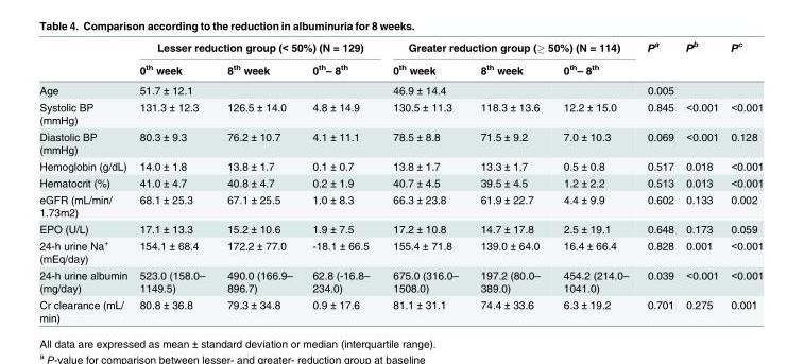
<table><thead><tr><td rowspan="2"></td><td colspan="3">Lesser reduction group (&lt; 50%) (N = 129)</td><td colspan="3">Greater reduction group (≥ 50%) (N = 114)</td><td rowspan="2">P<sup>a</sup></td><td rowspan="2">P<sup>b</sup></td><td rowspan="2">P<sup>c</sup></td></tr><tr><td>0<sup>th</sup> week</td><td>8<sup>th</sup> week</td><td>0<sup>th</sup>– 8<sup>th</sup></td><td>0<sup>th</sup> week</td><td>8<sup>th</sup> week</td><td>0<sup>th</sup>– 8<sup>th</sup></td></tr></thead><tbody><tr><td>Age</td><td>51.7 ± 12.1</td><td></td><td></td><td>46.9 ± 14.4</td><td></td><td></td><td>0.005</td><td></td><td></td></tr><tr><td>Systolic BP (mmHg)</td><td>131.3 ± 12.3</td><td>126.5 ± 14.0</td><td>4.8 ± 14.9</td><td>130.5 ± 11.3</td><td>118.3 ± 13.6</td><td>12.2 ± 15.0</td><td>0.845</td><td>&lt;0.001</td><td>&lt;0.001</td></tr><tr><td>Diastolic BP (mmHg)</td><td>80.3 ± 9.3</td><td>76.2 ± 10.7</td><td>4.1 ± 11.1</td><td>78.5 ± 8.8</td><td>71.5 ± 9.2</td><td>7.0 ± 10.3</td><td>0.069</td><td>&lt;0.001</td><td>0.128</td></tr><tr><td>Hemoglobin (g/dL)</td><td>14.0 ± 1.8</td><td>13.8 ± 1.7</td><td>0.1 ± 0.7</td><td>13.8 ± 1.7</td><td>13.3 ± 1.7</td><td>0.5 ± 0.8</td><td>0.517</td><td>0.018</td><td>&lt;0.001</td></tr><tr><td>Hematocrit (%)</td><td>41.0 ± 4.7</td><td>40.8 ± 4.7</td><td>0.2 ± 1.9</td><td>40.7 ± 4.5</td><td>39.5 ± 4.5</td><td>1.2 ± 2.2</td><td>0.513</td><td>0.013</td><td>&lt;0.001</td></tr><tr><td>eGFR (mL/min/ 1.73m2)</td><td>68.1 ± 25.3</td><td>67.1 ± 25.5</td><td>1.0 ± 8.3</td><td>66.3 ± 23.8</td><td>61.9 ± 22.7</td><td>4.4 ± 9.9</td><td>0.602</td><td>0.133</td><td>0.002</td></tr><tr><td>EPO (U/L)</td><td>17.1 ± 13.3</td><td>15.2 ± 10.6</td><td>1.9 ± 7.5</td><td>17.2 ± 10.8</td><td>14.7 ± 17.8</td><td>2.5 ± 19.1</td><td>0.648</td><td>0.173</td><td>0.059</td></tr><tr><td>24-h urine Na<sup>+</sup> (mEq/day)</td><td>154.1 ± 68.4</td><td>172.2 ± 77.0</td><td>-18.1 ± 66.5</td><td>155.4 ± 71.8</td><td>139.0 ± 64.0</td><td>16.4 ± 66.4</td><td>0.828</td><td>0.001</td><td>&lt;0.001</td></tr><tr><td>24-h urine albumin (mg/day)</td><td>523.0 (158.0– 1149.5)</td><td>490.0 (166.9– 896.7)</td><td>62.8 (-16.8– 234.0)</td><td>675.0 (316.0– 1508.0)</td><td>197.2 (80.0– 389.0)</td><td>454.2 (214.0– 1041.0)</td><td>0.039</td><td>&lt;0.001</td><td>&lt;0.001</td></tr><tr><td>Cr clearance (mL/ min)</td><td>80.8 ± 36.8</td><td>79.3 ± 34.8</td><td>0.9 ± 17.6</td><td>81.1 ± 31.1</td><td>74.4 ± 33.6</td><td>6.3 ± 19.2</td><td>0.701</td><td>0.275</td><td>0.001</td></tr></tbody></table>